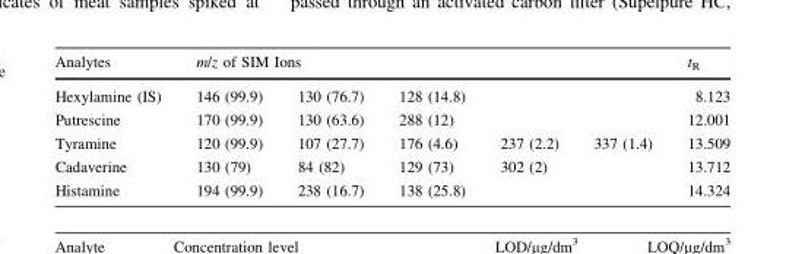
<table><thead><tr><td rowspan="2">Analytes Hexylamine (IS)</td><td colspan="5">m/z of SIM Ions</td><td rowspan="2">t<sub>R</sub> 8.123</td></tr><tr><td>146 (99.9)</td><td>130 (76.7)</td><td>128 (14.8)</td><td></td><td></td></tr></thead><tbody><tr><td>Putrescine</td><td>170 (99.9)</td><td>130 (63.6)</td><td>288 (12)</td><td></td><td></td><td>12.001</td></tr><tr><td>Tyramine</td><td>120 (99.9)</td><td>107 (27.7)</td><td>176 (4.6)</td><td>237 (2.2)</td><td>337 (1.4)</td><td>13.509</td></tr><tr><td>Cadaverine</td><td>130 (79)</td><td>84 (82)</td><td>129 (73)</td><td>302 (2)</td><td></td><td>13.712</td></tr><tr><td>Histamine</td><td>194 (99.9)</td><td>238 (16.7)</td><td>138 (25.8)</td><td></td><td></td><td>14.324</td></tr></tbody></table>